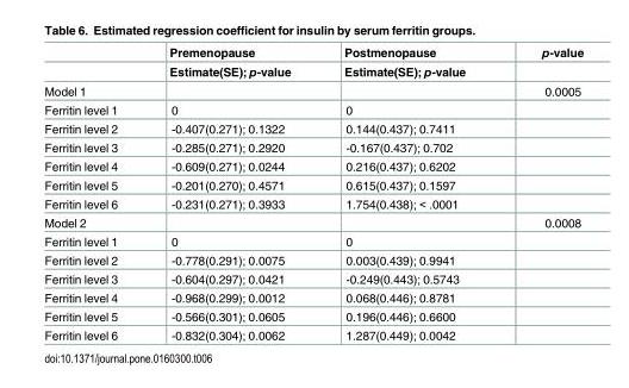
<table><thead><tr><td rowspan="2"></td><td rowspan="2">Premenopause Estimate(SE); p-value</td><td rowspan="2">Postmenopause Estimate(SE); p-value</td><td rowspan="2">p-value</td></tr><tr></tr></thead><tbody><tr><td>Model 1</td><td></td><td></td><td>0.0005</td></tr><tr><td>Ferritin level 1</td><td>0</td><td>0</td><td></td></tr><tr><td>Ferritin level 2</td><td>-0.407(0.271); 0.1322</td><td>0.144(0.437); 0.7411</td><td></td></tr><tr><td>Ferritin level 3</td><td>-0.285(0.271); 0.2920</td><td>-0.167(0.437); 0.702</td><td></td></tr><tr><td>Ferritin level 4</td><td>-0.609(0.271); 0.0244</td><td>0.216(0.437); 0.6202</td><td></td></tr><tr><td>Ferritin level 5</td><td>-0.201(0.270); 0.4571</td><td>0.615(0.437); 0.1597</td><td></td></tr><tr><td>Ferritin level 6</td><td>-0.231(0.271); 0.3933</td><td>1.754(0.438); &lt; .0001</td><td></td></tr><tr><td>Model 2</td><td></td><td></td><td>0.0008</td></tr><tr><td>Ferritin level 1</td><td>0</td><td>0</td><td></td></tr><tr><td>Ferritin level 2</td><td>-0.778(0.291); 0.0075</td><td>0.003(0.439); 0.9941</td><td></td></tr><tr><td>Ferritin level 3</td><td>-0.604(0.297); 0.0421</td><td>-0.249(0.443); 0.5743</td><td></td></tr><tr><td>Ferritin level 4</td><td>-0.968(0.299); 0.0012</td><td>0.068(0.446); 0.8781</td><td></td></tr><tr><td>Ferritin level 5</td><td>-0.566(0.301); 0.0605</td><td>0.196(0.446); 0.6600</td><td></td></tr><tr><td>Ferritin level 6</td><td>-0.832(0.304); 0.0062</td><td>1.287(0.449); 0.0042</td><td></td></tr></tbody></table>